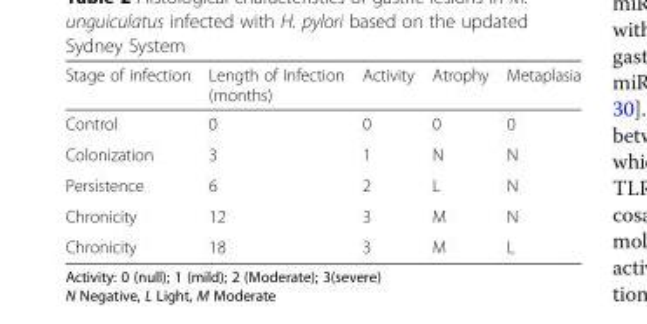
<table><thead><tr><td>Stage of infection</td><td>Length of Infection (months)</td><td>Activity</td><td>Atrophy</td><td>Metaplasia</td></tr></thead><tbody><tr><td>Control</td><td>0</td><td>0</td><td>0</td><td>0</td></tr><tr><td>Colonization</td><td>3</td><td>1</td><td>N</td><td>N</td></tr><tr><td>Persistence</td><td>6</td><td>2</td><td>L</td><td>N</td></tr><tr><td>Chronicity</td><td>12</td><td>3</td><td>M</td><td>N</td></tr><tr><td>Chronicity</td><td>18</td><td>3</td><td>M</td><td>L</td></tr></tbody></table>